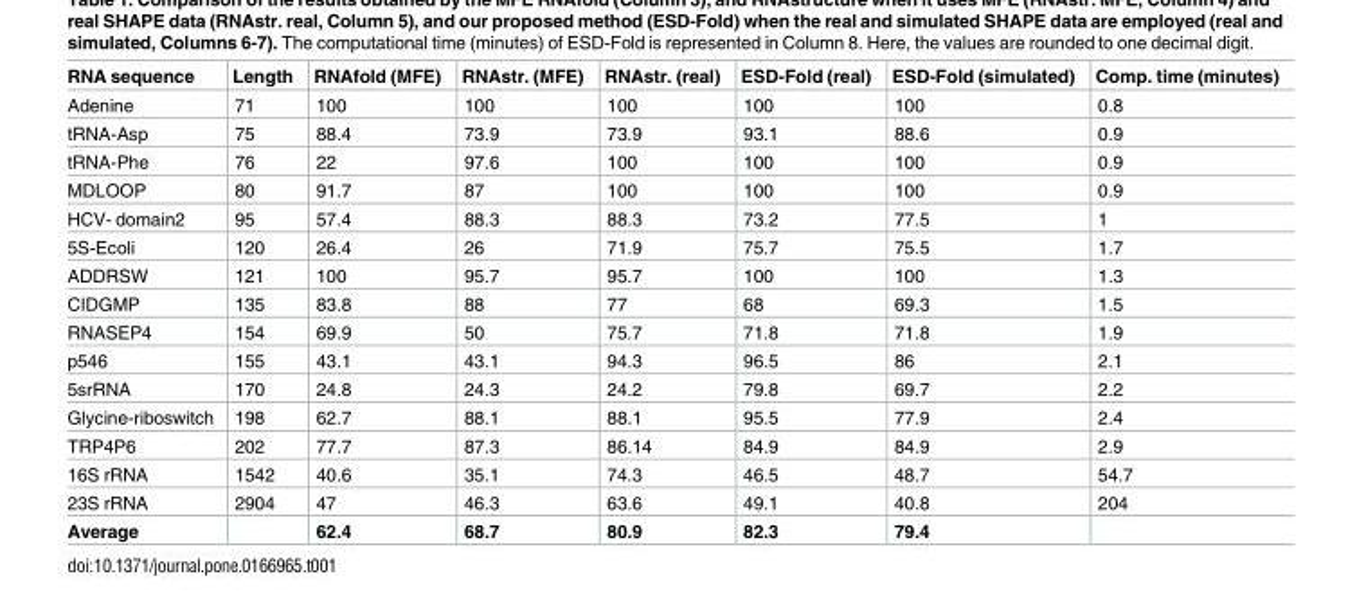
<table><thead><tr><td>RNA sequence</td><td>Length</td><td>RNAfold (MFE)</td><td>RNAstr. (MFE)</td><td>RNAstr. (real)</td><td>ESD-Fold (real)</td><td>ESD-Fold (simulated)</td><td>Comp. time (minutes)</td></tr></thead><tbody><tr><td>Adenine</td><td>71</td><td>100</td><td>100</td><td>100</td><td>100</td><td>100</td><td>0.8</td></tr><tr><td>tRNA-Asp</td><td>75</td><td>88.4</td><td>73.9</td><td>73.9</td><td>93.1</td><td>88.6</td><td>0.9</td></tr><tr><td>tRNA-Phe</td><td>76</td><td>22</td><td>97.6</td><td>100</td><td>100</td><td>100</td><td>0.9</td></tr><tr><td>MDLOOP</td><td>80</td><td>91.7</td><td>87</td><td>100</td><td>100</td><td>100</td><td>0.9</td></tr><tr><td>HCV- domain2</td><td>95</td><td>57.4</td><td>88.3</td><td>88.3</td><td>73.2</td><td>77.5</td><td>1</td></tr><tr><td>5S-Ecoli</td><td>120</td><td>26.4</td><td>26</td><td>71.9</td><td>75.7</td><td>75.5</td><td>1.7</td></tr><tr><td>ADDRSW</td><td>121</td><td>100</td><td>95.7</td><td>95.7</td><td>100</td><td>100</td><td>1.3</td></tr><tr><td>CIDGMP</td><td>135</td><td>83.8</td><td>88</td><td>77</td><td>68</td><td>69.3</td><td>1.5</td></tr><tr><td>RNASEP4</td><td>154</td><td>69.9</td><td>50</td><td>75.7</td><td>71.8</td><td>71.8</td><td>1.9</td></tr><tr><td>p546</td><td>155</td><td>43.1</td><td>43.1</td><td>94.3</td><td>96.5</td><td>86</td><td>2.1</td></tr><tr><td>5srRNA</td><td>170</td><td>24.8</td><td>24.3</td><td>24.2</td><td>79.8</td><td>69.7</td><td>2.2</td></tr><tr><td>Glycine-riboswitch</td><td>198</td><td>62.7</td><td>88.1</td><td>88.1</td><td>95.5</td><td>77.9</td><td>2.4</td></tr><tr><td>TRP4P6</td><td>202</td><td>77.7</td><td>87.3</td><td>86.14</td><td>84.9</td><td>84.9</td><td>2.9</td></tr><tr><td>16S rRNA</td><td>1542</td><td>40.6</td><td>35.1</td><td>74.3</td><td>46.5</td><td>48.7</td><td>54.7</td></tr><tr><td>23S rRNA</td><td>2904</td><td>47</td><td>46.3</td><td>63.6</td><td>49.1</td><td>40.8</td><td>204</td></tr><tr><td>Average</td><td></td><td>62.4</td><td>68.7</td><td>80.9</td><td>82.3</td><td>79.4</td><td></td></tr></tbody></table>